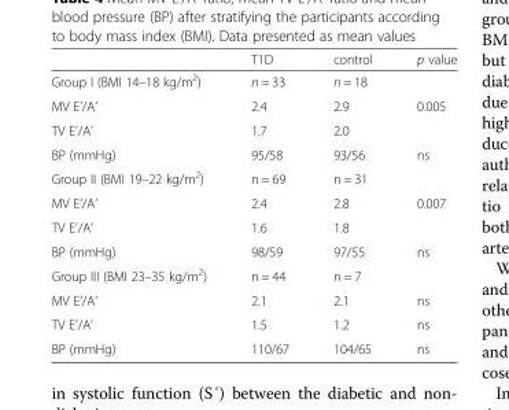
<table><thead><tr><td></td><td>T1D</td><td>control</td><td>p value</td></tr></thead><tbody><tr><td>Group I (BMI 14–18 kg/m<sup>2</sup>)</td><td>n = 33</td><td>n = 18</td><td></td></tr><tr><td>MV E’/A’</td><td>2.4</td><td>2.9</td><td>0.005</td></tr><tr><td>TV E’/A’</td><td>1.7</td><td>2.0</td><td></td></tr><tr><td>BP (mmHg)</td><td>95/58</td><td>93/56</td><td>ns</td></tr><tr><td>Group II (BMI 19–22 kg/m<sup>2</sup>)</td><td>n = 69</td><td>n = 31</td><td></td></tr><tr><td>MV E’/A’</td><td>2.4</td><td>2.8</td><td>0.007</td></tr><tr><td>TV E’/A’</td><td>1.6</td><td>1.8</td><td></td></tr><tr><td>BP (mmHg)</td><td>98/59</td><td>97/55</td><td>ns</td></tr><tr><td>Group III (BMI 23–35 kg/m<sup>2</sup>)</td><td>n = 44</td><td>n = 7</td><td></td></tr><tr><td>MV E’/A’</td><td>2.1</td><td>2.1</td><td>ns</td></tr><tr><td>TV E’/A’</td><td>1.5</td><td>1.2</td><td>ns</td></tr><tr><td>BP (mmHg)</td><td>110/67</td><td>104/65</td><td>ns</td></tr></tbody></table>